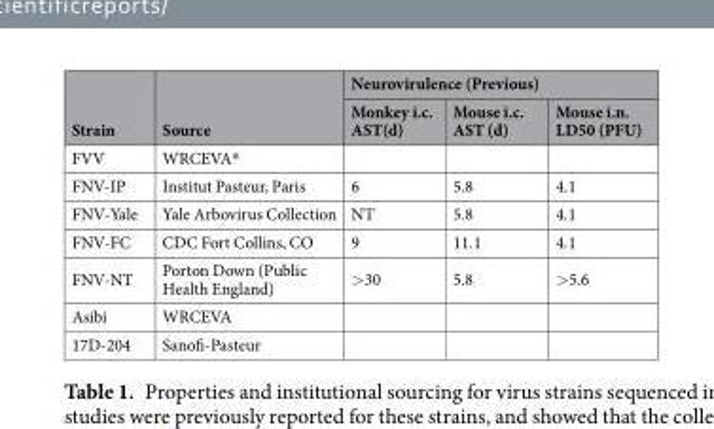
<table><thead><tr><td rowspan="2">Strain</td><td rowspan="2">Source</td><td colspan="3">Neurovirulence (Previous)</td></tr><tr><td>Monkey i.c. AST(d)</td><td>Mouse i.c. AST (d)</td><td>Mouse i.n. LD50 (PFU)</td></tr></thead><tbody><tr><td>FVV</td><td>WRCEVA*</td><td></td><td></td><td></td></tr><tr><td>FNV-IP</td><td>Institut Pasteur, Paris</td><td>6</td><td>5.8</td><td>4.1</td></tr><tr><td>FNV-Yale</td><td>Yale Arbovirus Collection</td><td>NT</td><td>5.8</td><td>4.1</td></tr><tr><td>FNV-FC</td><td>CDC Fort Collins, CO</td><td>9</td><td>11.1</td><td>4.1</td></tr><tr><td>FNV-NT</td><td>Porton Down (Public Health England)</td><td>&gt;30</td><td>5.8</td><td>&gt;5.6</td></tr><tr><td>Asibi</td><td>WRCEVA</td><td></td><td></td><td></td></tr><tr><td>17D-204</td><td>Sanofi-Pasteur</td><td></td><td></td><td></td></tr></tbody></table>